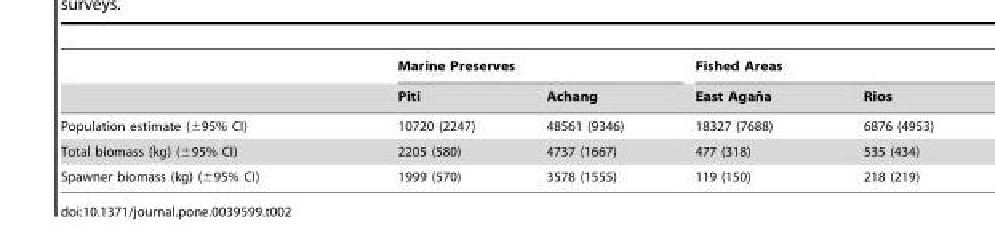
<table><thead><tr><td rowspan="2"></td><td colspan="2">Marine Preserves</td><td colspan="2">Fished Areas</td></tr><tr><td>Piti</td><td>Achang</td><td>East Agan˜ a</td><td>Rios</td></tr></thead><tbody><tr><td>Population estimate (±95% CI)</td><td>10720 (2247)</td><td>48561 (9346)</td><td>18327 (7688)</td><td>6876 (4953)</td></tr><tr><td>Total biomass (kg) (±95% CI)</td><td>2205 (580)</td><td>4737 (1667)</td><td>477 (318)</td><td>535 (434)</td></tr><tr><td>Spawner biomass (kg) (±95% CI)</td><td>1999 (570)</td><td>3578 (1555)</td><td>119 (150)</td><td>218 (219)</td></tr></tbody></table>